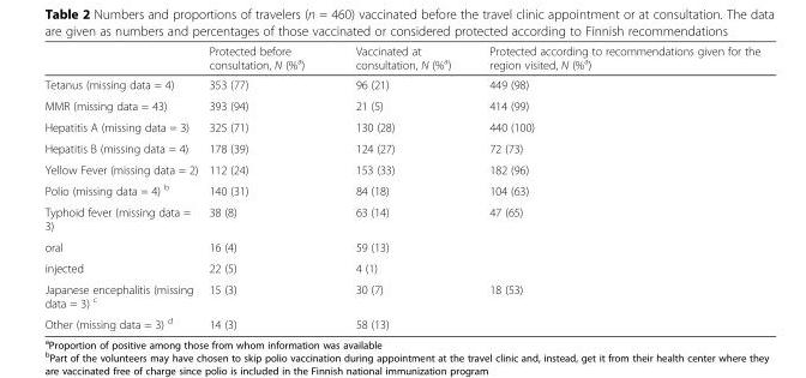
<table><thead><tr><td></td><td>Protected before consultation, N (%<sup>a</sup>)</td><td>Vaccinated at consultation, N (%<sup>a</sup>)</td><td>Protected according to recommendations given for the region visited, N (%<sup>a</sup>)</td></tr></thead><tbody><tr><td>Tetanus (missing data = 4)</td><td>353 (77)</td><td>96 (21)</td><td>449 (98)</td></tr><tr><td>MMR (missing data = 43)</td><td>393 (94)</td><td>21 (5)</td><td>414 (99)</td></tr><tr><td>Hepatitis A (missing data = 3)</td><td>325 (71)</td><td>130 (28)</td><td>440 (100)</td></tr><tr><td>Hepatitis B (missing data = 4)</td><td>178 (39)</td><td>124 (27)</td><td>72 (73)</td></tr><tr><td>Yellow Fever (missing data = 2)</td><td>112 (24)</td><td>153 (33)</td><td>182 (96)</td></tr><tr><td>Polio (missing data = 4) <sup>b</sup></td><td>140 (31)</td><td>84 (18)</td><td>104 (63)</td></tr><tr><td>Typhoid fever (missing data = 3)</td><td>38 (8)</td><td>63 (14)</td><td>47 (65)</td></tr><tr><td>oral</td><td>16 (4)</td><td>59 (13)</td><td></td></tr><tr><td>injected</td><td>22 (5)</td><td>4 (1)</td><td></td></tr><tr><td>Japanese encephalitis (missing data = 3) <sup>c</sup></td><td>15 (3)</td><td>30 (7)</td><td>18 (53)</td></tr><tr><td>Other (missing data = 3) <sup>d</sup></td><td>14 (3)</td><td>58 (13)</td><td></td></tr></tbody></table>